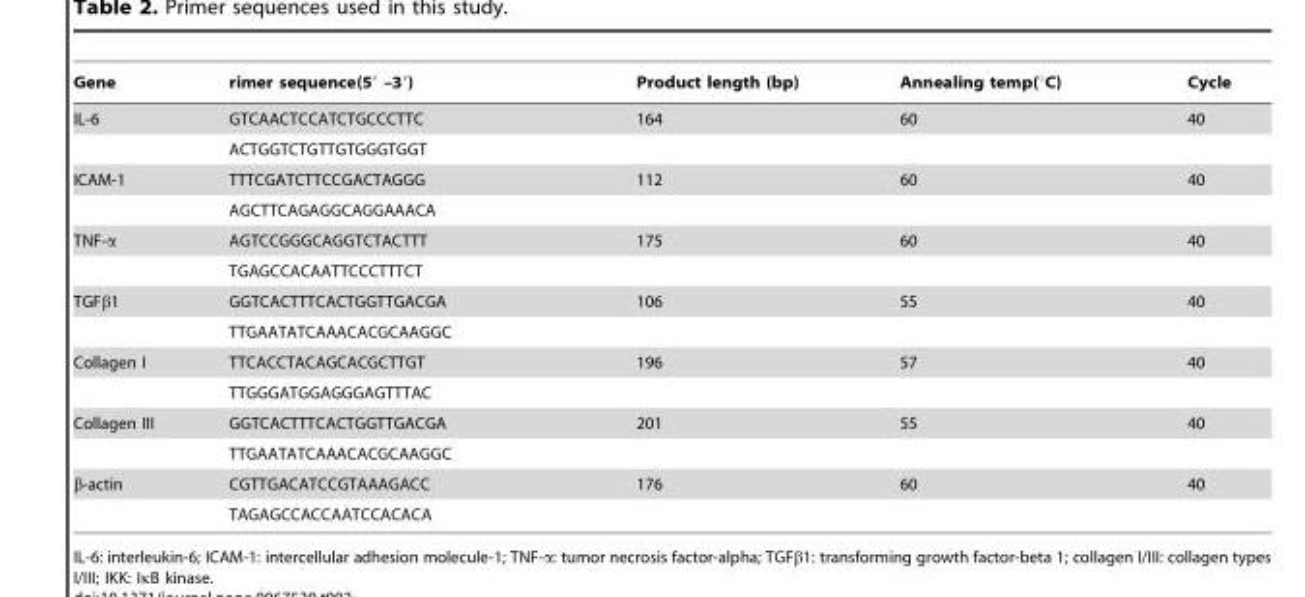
<table><thead><tr><td>Gene</td><td>rimer sequence(5′ –3′)</td><td>Product length (bp)</td><td>Annealing temp(°C)</td><td>Cycle</td></tr></thead><tbody><tr><td rowspan="2">IL-6</td><td>GTCAACTCCATCTGCCCTTC</td><td>164</td><td>60</td><td>40</td></tr><tr><td>ACTGGTCTGTTGTGGGTGGT</td><td></td><td></td><td></td></tr><tr><td rowspan="2">ICAM-1</td><td>TTTCGATCTTCCGACTAGGG</td><td>112</td><td>60</td><td>40</td></tr><tr><td>AGCTTCAGAGGCAGGAAACA</td><td></td><td></td><td></td></tr><tr><td rowspan="2">TNF-α</td><td>AGTCCGGGCAGGTCTACTTT</td><td>175</td><td>60</td><td>40</td></tr><tr><td>TGAGCCACAATTCCCTTTCT</td><td></td><td></td><td></td></tr><tr><td rowspan="2">TGFβ1</td><td>GGTCACTTTCACTGGTTGACGA</td><td>106</td><td>55</td><td>40</td></tr><tr><td>TTGAATATCAAACACGCAAGGC</td><td></td><td></td><td></td></tr><tr><td rowspan="2">Collagen I</td><td>TTCACCTACAGCACGCTTGT</td><td>196</td><td>57</td><td>40</td></tr><tr><td>TTGGGATGGAGGGAGTTTAC</td><td></td><td></td><td></td></tr><tr><td rowspan="2">Collagen III</td><td>GGTCACTTTCACTGGTTGACGA</td><td>201</td><td>55</td><td>40</td></tr><tr><td>TTGAATATCAAACACGCAAGGC</td><td></td><td></td><td></td></tr><tr><td rowspan="2">β-actin</td><td>CGTTGACATCCGTAAAGACC</td><td>176</td><td>60</td><td>40</td></tr><tr><td>TAGAGCCACCAATCCACACA</td><td></td><td></td><td></td></tr></tbody></table>